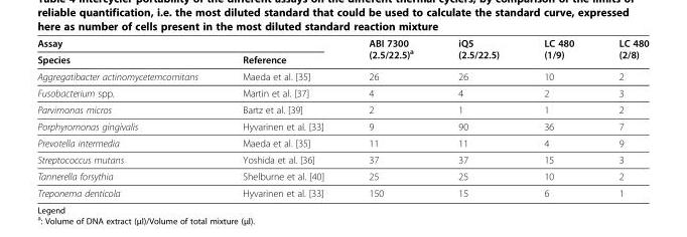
<table><thead><tr><td colspan="2">Assay</td><td rowspan="2">ABI 7300 (2.5/22.5)<sup>a</sup></td><td rowspan="2">iQ5 (2.5/22.5)</td><td rowspan="2">LC 480 (1/9)</td><td rowspan="2">LC 480 (2/8)</td></tr><tr><td>Species</td><td>Reference</td></tr></thead><tbody><tr><td>Aggregatibacter actinomycetemcomitans</td><td>Maeda et al. [35]</td><td>26</td><td>26</td><td>10</td><td>2</td></tr><tr><td>Fusobacterium spp.</td><td>Martin et al. [37]</td><td>4</td><td>4</td><td>2</td><td>3</td></tr><tr><td>Parvimonas micros</td><td>Bartz et al. [39]</td><td>2</td><td>1</td><td>1</td><td>2</td></tr><tr><td>Porphyromonas gingivalis</td><td>Hyvarinen et al. [33]</td><td>9</td><td>90</td><td>36</td><td>7</td></tr><tr><td>Prevotella intermedia</td><td>Maeda et al. [35]</td><td>11</td><td>11</td><td>4</td><td>9</td></tr><tr><td>Streptococcus mutans</td><td>Yoshida et al. [36]</td><td>37</td><td>37</td><td>15</td><td>3</td></tr><tr><td>Tannerella forsythia</td><td>Shelburne et al. [40]</td><td>25</td><td>25</td><td>10</td><td>2</td></tr><tr><td>Treponema denticola</td><td>Hyvarinen et al. [33]</td><td>150</td><td>15</td><td>6</td><td>1</td></tr></tbody></table>